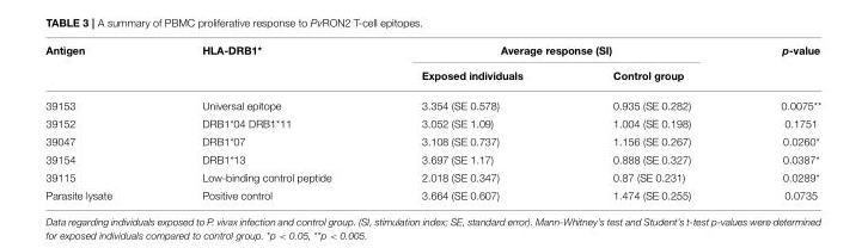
<table><thead><tr><td rowspan="2">Antigen</td><td rowspan="2">HLA-DRB1*</td><td colspan="2">Average response (SI)</td><td rowspan="2">p-value</td></tr><tr><td>Exposed individuals</td><td>Control group</td></tr></thead><tbody><tr><td>39153</td><td>Universal epitope</td><td>3.354 (SE 0.578)</td><td>0.935 (SE 0.282)</td><td>0.0075**</td></tr><tr><td>39152</td><td>DRB1*04 DRB1*11</td><td>3.052 (SE 1.09)</td><td>1.004 (SE 0.198)</td><td>0.1751</td></tr><tr><td>39047</td><td>DRB1*07</td><td>3.108 (SE 0.737)</td><td>1.156 (SE 0.267)</td><td>0.0260*</td></tr><tr><td>39154</td><td>DRB1*13</td><td>3.697 (SE 1.17)</td><td>0.888 (SE 0.327)</td><td>0.0387*</td></tr><tr><td>39115</td><td>Low-binding control peptide</td><td>2.018 (SE 0.347)</td><td>0.87 (SE 0.231)</td><td>0.0289*</td></tr><tr><td>Parasite lysate</td><td>Positive control</td><td>3.664 (SE 0.607)</td><td>1.474 (SE 0.255)</td><td>0.0735</td></tr></tbody></table>